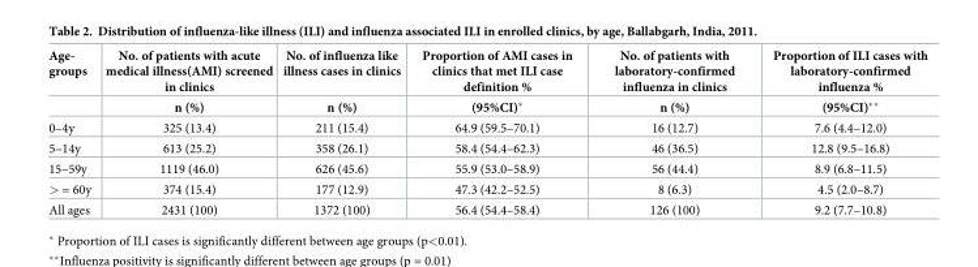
<table><thead><tr><td rowspan="2">Age- groups</td><td rowspan="2">No. of patients with acute medical illness(AMI) screened in clinics n (%)</td><td rowspan="2">No. of influenza like illness cases in clinics n (%)</td><td rowspan="2">Proportion of AMI cases in clinics that met ILI case definition % (95%CI)*</td><td rowspan="2">No. of patients with laboratory-confirmed influenza in clinics n (%)</td><td rowspan="2">Proportion of ILI cases with laboratory-confirmed influenza % (95%CI)**</td></tr><tr></tr></thead><tbody><tr><td>0–4y</td><td>325 (13.4)</td><td>211 (15.4)</td><td>64.9 (59.5–70.1)</td><td>16 (12.7)</td><td>7.6 (4.4–12.0)</td></tr><tr><td>5–14y</td><td>613 (25.2)</td><td>358 (26.1)</td><td>58.4 (54.4–62.3)</td><td>46 (36.5)</td><td>12.8 (9.5–16.8)</td></tr><tr><td>15–59y</td><td>1119 (46.0)</td><td>626 (45.6)</td><td>55.9 (53.0–58.9)</td><td>56 (44.4)</td><td>8.9 (6.8–11.5)</td></tr><tr><td>&gt; = 60y</td><td>374 (15.4)</td><td>177 (12.9)</td><td>47.3 (42.2–52.5)</td><td>8 (6.3)</td><td>4.5 (2.0–8.7)</td></tr><tr><td>All ages</td><td>2431 (100)</td><td>1372 (100)</td><td>56.4 (54.4–58.4)</td><td>126 (100)</td><td>9.2 (7.7–10.8)</td></tr></tbody></table>